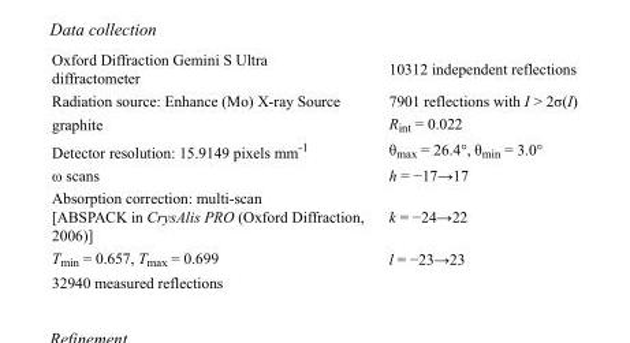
<table><tbody><tr><td>Oxford Diffraction Gemini S Ultra diffractometer</td><td>10312 independent reflections</td></tr><tr><td>Radiation source: Enhance (Mo) X-ray Source</td><td>7901 reflections with I &gt; 2σ(I)</td></tr><tr><td>graphite</td><td>R<sub>int</sub> = 0.022</td></tr><tr><td>Detector resolution: 15.9149 pixels mm<sup>-1</sup></td><td>θ<sub>max</sub> = 26.4°, θ<sub>min</sub> = 3.0°</td></tr><tr><td>ω scans</td><td>h = −17→17</td></tr><tr><td>Absorption correction: multi-scan [ABSPACK in CrysAlis PRO (Oxford Diffraction, 2006)]</td><td>k = −24→22</td></tr><tr><td>T<sub>min</sub> = 0.657, T<sub>max</sub> = 0.699</td><td>l = −23→23</td></tr><tr><td>32940 measured reflections</td><td></td></tr></tbody></table>